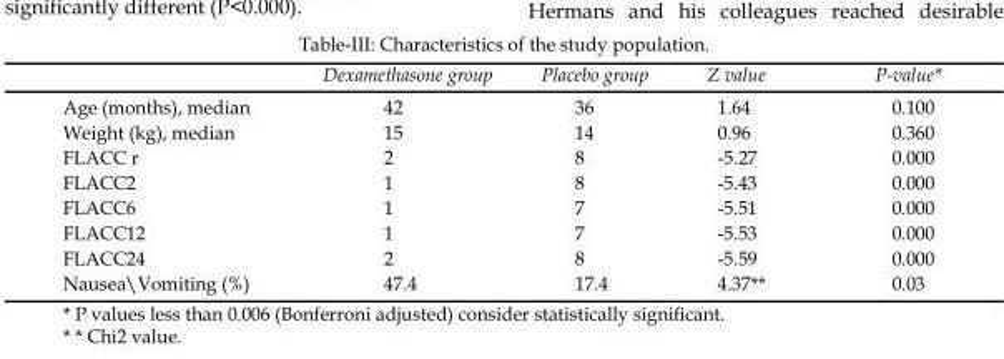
<table><thead><tr><td></td><td>Dexamethasone group</td><td>Placebo group</td><td>Z value</td><td>P-value*</td></tr></thead><tbody><tr><td>Age (months), median</td><td>42</td><td>36</td><td>1.64</td><td>0.100</td></tr><tr><td>Weight (kg), median</td><td>15</td><td>14</td><td>0.96</td><td>0.360</td></tr><tr><td>FLACC r</td><td>2</td><td>8</td><td>-5.27</td><td>0.000</td></tr><tr><td>FLACC2</td><td>1</td><td>8</td><td>-5.43</td><td>0.000</td></tr><tr><td>FLACC6</td><td>1</td><td>7</td><td>-5.51</td><td>0.000</td></tr><tr><td>FLACC12</td><td>1</td><td>7</td><td>-5.53</td><td>0.000</td></tr><tr><td>FLACC24</td><td>2</td><td>8</td><td>-5.59</td><td>0.000</td></tr><tr><td>Nausea\Vomiting (%)</td><td>47.4</td><td>17.4</td><td>4.37**</td><td>0.03</td></tr></tbody></table>